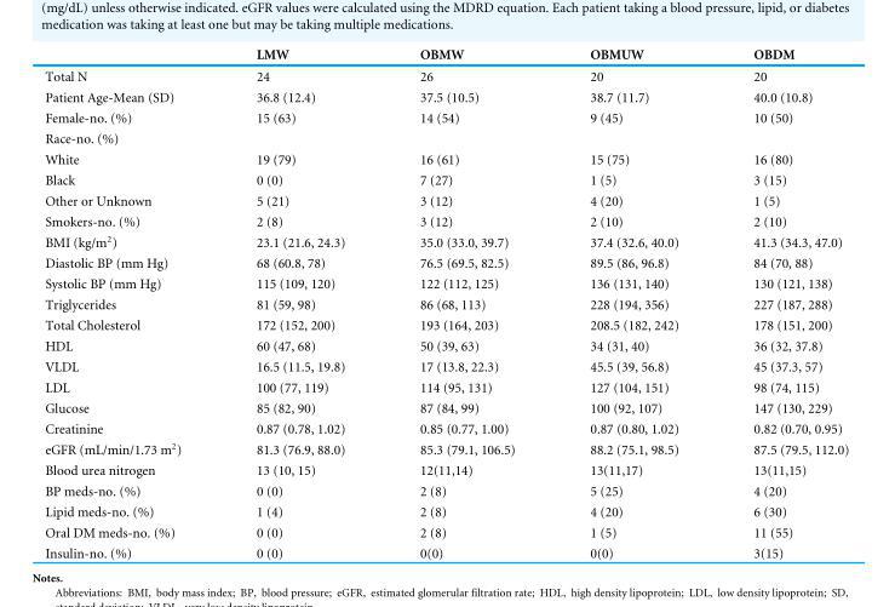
<table><thead><tr><td></td><td>LMW</td><td>OBMW</td><td>OBMUW</td><td>OBDM</td></tr></thead><tbody><tr><td>Total N</td><td>24</td><td>26</td><td>20</td><td>20</td></tr><tr><td>Patient Age-Mean (SD)</td><td>36.8 (12.4)</td><td>37.5 (10.5)</td><td>38.7 (11.7)</td><td>40.0 (10.8)</td></tr><tr><td>Female-no. (%)</td><td>15 (63)</td><td>14 (54)</td><td>9 (45)</td><td>10 (50)</td></tr><tr><td colspan="5">Race-no. (%)</td></tr><tr><td>White</td><td>19 (79)</td><td>16 (61)</td><td>15 (75)</td><td>16 (80)</td></tr><tr><td>Black</td><td>0 (0)</td><td>7 (27)</td><td>1 (5)</td><td>3 (15)</td></tr><tr><td>Other or Unknown</td><td>5 (21)</td><td>3 (12)</td><td>4 (20)</td><td>1 (5)</td></tr><tr><td>Smokers-no. (%)</td><td>2 (8)</td><td>3 (12)</td><td>2 (10)</td><td>2 (10)</td></tr><tr><td>BMI (kg/m<sup>2</sup>)</td><td>23.1 (21.6, 24.3)</td><td>35.0 (33.0, 39.7)</td><td>37.4 (32.6, 40.0)</td><td>41.3 (34.3, 47.0)</td></tr><tr><td>Diastolic BP (mm Hg)</td><td>68 (60.8, 78)</td><td>76.5 (69.5, 82.5)</td><td>89.5 (86, 96.8)</td><td>84 (70, 88)</td></tr><tr><td>Systolic BP (mm Hg)</td><td>115 (109, 120)</td><td>122 (112, 125)</td><td>136 (131, 140)</td><td>130 (121, 138)</td></tr><tr><td>Triglycerides</td><td>81 (59, 98)</td><td>86 (68, 113)</td><td>228 (194, 356)</td><td>227 (187, 288)</td></tr><tr><td>Total Cholesterol</td><td>172 (152, 200)</td><td>193 (164, 203)</td><td>208.5 (182, 242)</td><td>178 (151, 200)</td></tr><tr><td>HDL</td><td>60 (47, 68)</td><td>50 (39, 63)</td><td>34 (31, 40)</td><td>36 (32, 37.8)</td></tr><tr><td>VLDL</td><td>16.5 (11.5, 19.8)</td><td>17 (13.8, 22.3)</td><td>45.5 (39, 56.8)</td><td>45 (37.3, 57)</td></tr><tr><td>LDL</td><td>100 (77, 119)</td><td>114 (95, 131)</td><td>127 (104, 151)</td><td>98 (74, 115)</td></tr><tr><td>Glucose</td><td>85 (82, 90)</td><td>87 (84, 99)</td><td>100 (92, 107)</td><td>147 (130, 229)</td></tr><tr><td>Creatinine</td><td>0.87 (0.78, 1.02)</td><td>0.85 (0.77, 1.00)</td><td>0.87 (0.80, 1.02)</td><td>0.82 (0.70, 0.95)</td></tr><tr><td>eGFR (mL/min/1.73 m<sup>2</sup>)</td><td>81.3 (76.9, 88.0)</td><td>85.3 (79.1, 106.5)</td><td>88.2 (75.1, 98.5)</td><td>87.5 (79.5, 112.0)</td></tr><tr><td>Blood urea nitrogen</td><td>13 (10, 15)</td><td>12(11,14)</td><td>13(11,17)</td><td>13(11,15)</td></tr><tr><td>BP meds-no. (%)</td><td>0 (0)</td><td>2 (8)</td><td>5 (25)</td><td>4 (20)</td></tr><tr><td>Lipid meds-no. (%)</td><td>1 (4)</td><td>2 (8)</td><td>4 (20)</td><td>6 (30)</td></tr><tr><td>Oral DM meds-no. (%)</td><td>0 (0)</td><td>2 (8)</td><td>1 (5)</td><td>11 (55)</td></tr><tr><td>Insulin-no. (%)</td><td>0 (0)</td><td>0(0)</td><td>0(0)</td><td>3(15)</td></tr></tbody></table>